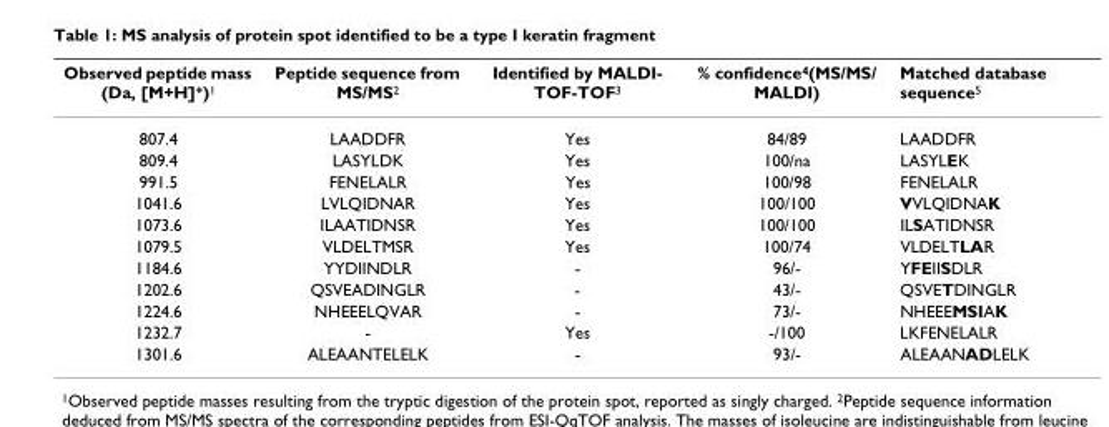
<table><thead><tr><td>Observed peptide mass (Da, [M+H]<sup>+</sup>)<sup>1</sup></td><td>Peptide sequence from MS/MS<sup>2</sup></td><td>Identified by MALDI- TOF-TOF<sup>3</sup></td><td>% confidence<sup>4</sup>(MS/MS/ MALDI)</td><td>Matched database sequence<sup>5</sup></td></tr></thead><tbody><tr><td>807.4</td><td>LAADDFR</td><td>Yes</td><td>84/89</td><td>LAADDFR</td></tr><tr><td>809.4</td><td>LASYLDK</td><td>Yes</td><td>100/na</td><td>LASYLEK</td></tr><tr><td>991.5</td><td>FENELALR</td><td>Yes</td><td>100/98</td><td>FENELALR</td></tr><tr><td>1041.6</td><td>LVLQIDNAR</td><td>Yes</td><td>100/100</td><td>VVLQIDNAK</td></tr><tr><td>1073.6</td><td>ILAATIDNSR</td><td>Yes</td><td>100/100</td><td>ILSATIDNSR</td></tr><tr><td>1079.5</td><td>VLDELTMSR</td><td>Yes</td><td>100/74</td><td>VLDELTLAR</td></tr><tr><td>1184.6</td><td>YYDIINDLR</td><td>-</td><td>96/-</td><td>YFEIISDLR</td></tr><tr><td>1202.6</td><td>QSVEADINGLR</td><td>-</td><td>43/-</td><td>QSVETDINGLR</td></tr><tr><td>1224.6</td><td>NHEEELQVAR</td><td>-</td><td>73/-</td><td>NHEEEMSIAK</td></tr><tr><td>1232.7</td><td>-</td><td>Yes</td><td>-/100</td><td>LKFENELALR</td></tr><tr><td>1301.6</td><td>ALEAANTELELK</td><td>-</td><td>93/-</td><td>ALEAANADLELK</td></tr></tbody></table>